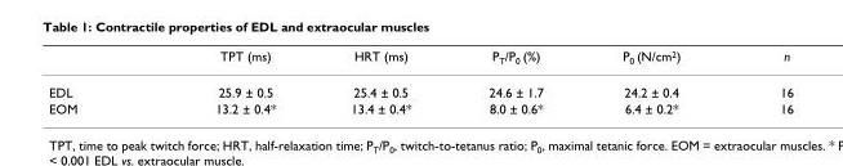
<table><thead><tr><td></td><td>TPT (ms)</td><td>HRT (ms)</td><td>PT/P0 (%)</td><td>P0 (N/cm2)</td><td>n</td></tr></thead><tbody><tr><td>EDL</td><td>25.9 ± 0.5</td><td>25.4 ± 0.5</td><td>24.6 ± 1.7</td><td>24.2 ± 0.4</td><td>16</td></tr><tr><td>EOM</td><td>13.2 ± 0.4*</td><td>13.4 ± 0.4*</td><td>8.0 ± 0.6*</td><td>6.4 ± 0.2*</td><td>16</td></tr></tbody></table>